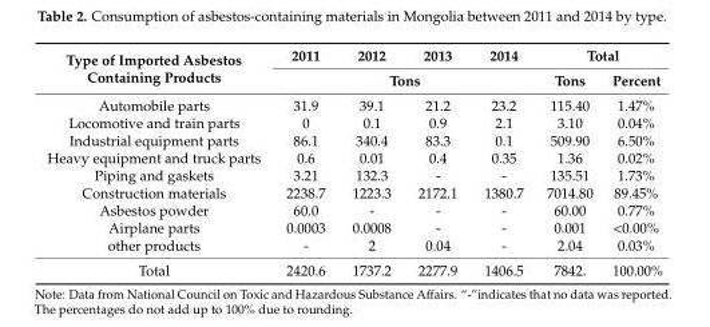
<table><thead><tr><td rowspan="2">Type of Imported Asbestos Containing Products</td><td>2011</td><td>2012</td><td>2013</td><td>2014</td><td colspan="2">Total</td></tr><tr><td colspan="4">Tons</td><td>Tons</td><td>Percent</td></tr></thead><tbody><tr><td>Automobile parts</td><td>31.9</td><td>39.1</td><td>21.2</td><td>23.2</td><td>115.40</td><td>1.47%</td></tr><tr><td>Locomotive and train parts</td><td>0</td><td>0.1</td><td>0.9</td><td>2.1</td><td>3.10</td><td>0.04%</td></tr><tr><td>Industrial equipment parts</td><td>86.1</td><td>340.4</td><td>83.3</td><td>0.1</td><td>509.90</td><td>6.50%</td></tr><tr><td>Heavy equipment and truck parts</td><td>0.6</td><td>0.01</td><td>0.4</td><td>0.35</td><td>1.36</td><td>0.02%</td></tr><tr><td>Piping and gaskets</td><td>3.21</td><td>132.3</td><td>-</td><td>-</td><td>135.51</td><td>1.73%</td></tr><tr><td>Construction materials</td><td>2238.7</td><td>1223.3</td><td>2172.1</td><td>1380.7</td><td>7014.80</td><td>89.45%</td></tr><tr><td>Asbestos powder</td><td>60.0</td><td>-</td><td>-</td><td>-</td><td>60.00</td><td>0.77%</td></tr><tr><td>Airplane parts</td><td>0.0003</td><td>0.0008</td><td>-</td><td>-</td><td>0.001</td><td>&lt;0.00%</td></tr><tr><td>other products</td><td>-</td><td>2</td><td>0.04</td><td>-</td><td>2.04</td><td>0.03%</td></tr><tr><td>Total</td><td>2420.6</td><td>1737.2</td><td>2277.9</td><td>1406.5</td><td>7842.</td><td>100.00%</td></tr></tbody></table>